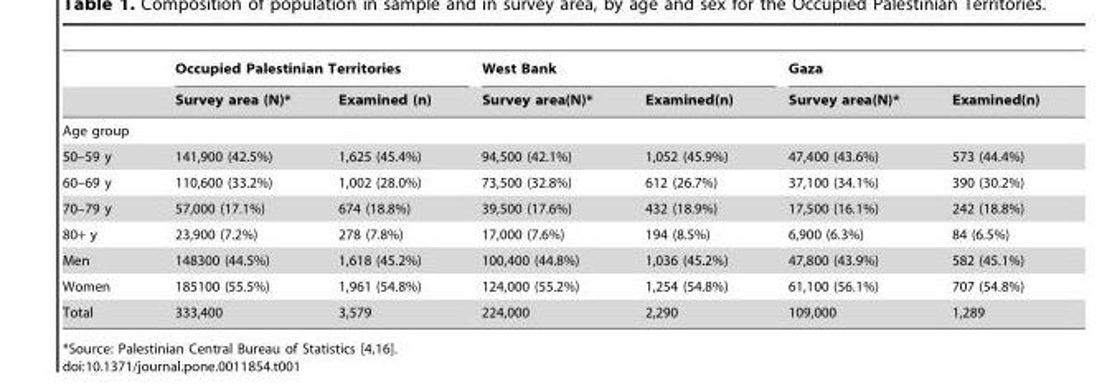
<table><thead><tr><td rowspan="2"></td><td colspan="2">Occupied Palestinian Territories</td><td colspan="2">West Bank</td><td colspan="2">Gaza</td></tr><tr><td>Survey area (N)*</td><td>Examined (n)</td><td>Survey area(N)*</td><td>Examined(n)</td><td>Survey area(N)*</td><td>Examined(n)</td></tr></thead><tbody><tr><td colspan="7">Age group</td></tr><tr><td>50–59 y</td><td>141,900 (42.5%)</td><td>1,625 (45.4%)</td><td>94,500 (42.1%)</td><td>1,052 (45.9%)</td><td>47,400 (43.6%)</td><td>573 (44.4%)</td></tr><tr><td>60–69 y</td><td>110,600 (33.2%)</td><td>1,002 (28.0%)</td><td>73,500 (32.8%)</td><td>612 (26.7%)</td><td>37,100 (34.1%)</td><td>390 (30.2%)</td></tr><tr><td>70–79 y</td><td>57,000 (17.1%)</td><td>674 (18.8%)</td><td>39,500 (17.6%)</td><td>432 (18.9%)</td><td>17,500 (16.1%)</td><td>242 (18.8%)</td></tr><tr><td>80+ y</td><td>23,900 (7.2%)</td><td>278 (7.8%)</td><td>17,000 (7.6%)</td><td>194 (8.5%)</td><td>6,900 (6.3%)</td><td>84 (6.5%)</td></tr><tr><td>Men</td><td>148300 (44.5%)</td><td>1,618 (45.2%)</td><td>100,400 (44.8%)</td><td>1,036 (45.2%)</td><td>47,800 (43.9%)</td><td>582 (45.1%)</td></tr><tr><td>Women</td><td>185100 (55.5%)</td><td>1,961 (54.8%)</td><td>124,000 (55.2%)</td><td>1,254 (54.8%)</td><td>61,100 (56.1%)</td><td>707 (54.8%)</td></tr><tr><td>Total</td><td>333,400</td><td>3,579</td><td>224,000</td><td>2,290</td><td>109,000</td><td>1,289</td></tr></tbody></table>